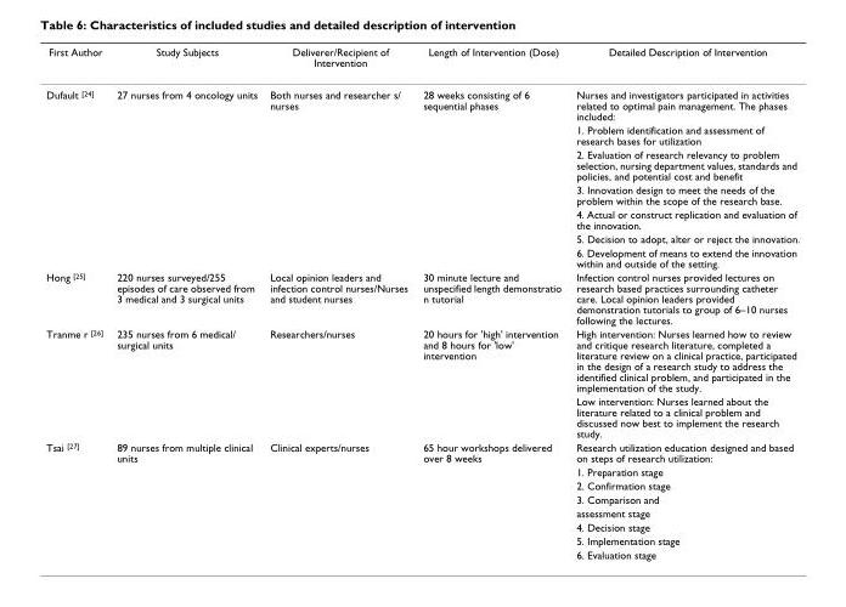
<table><thead><tr><td>First Author</td><td>Study Subjects</td><td>Deliverer/Recipient of Intervention</td><td>Length of Intervention (Dose)</td><td>Detailed Description of Intervention</td></tr></thead><tbody><tr><td rowspan="7">Dufault <sup>[24]</sup></td><td>27 nurses from 4 oncology units</td><td>Both nurses and researcher s/ nurses</td><td>28 weeks consisting of 6 sequential phases</td><td>Nurses and investigators participated in activities related to optimal pain management. The phases included:</td></tr><tr><td></td><td></td><td></td><td>1. Problem identification and assessment of research bases for utilization</td></tr><tr><td></td><td></td><td></td><td>2. Evaluation of research relevancy to problem selection, nursing department values, standards and policies, and potential cost and benefit</td></tr><tr><td></td><td></td><td></td><td>3. Innovation design to meet the needs of the problem within the scope of the research base.</td></tr><tr><td></td><td></td><td></td><td>4. Actual or construct replication and evaluation of the innovation.</td></tr><tr><td></td><td></td><td></td><td>5. Decision to adopt, alter or reject the innovation.</td></tr><tr><td></td><td></td><td></td><td>6. Development of means to extend the innovation within and outside of the setting.</td></tr><tr><td>Hong <sup>[25]</sup></td><td>220 nurses surveyed/255 episodes of care observed from 3 medical and 3 surgical units</td><td>Local opinion leaders and infection control nurses/Nurses and student nurses</td><td>30 minute lecture and unspecified length demonstratio n tutorial</td><td>Infection control nurses provided lectures on research based practices surrounding catheter care. Local opinion leaders provided demonstration tutorials to group of 6–10 nurses following the lectures.</td></tr><tr><td rowspan="2">Tranme r <sup>[26]</sup></td><td>235 nurses from 6 medical/ surgical units</td><td>Researchers/nurses</td><td>20 hours for &#x27;high&#x27; intervention and 8 hours for &#x27;low&#x27; intervention</td><td>High intervention: Nurses learned how to review and critique research literature, completed a literature review on a clinical practice, participated in the design of a research study to address the identified clinical problem, and participated in the implementation of the study.</td></tr><tr><td></td><td></td><td></td><td>Low intervention: Nurses learned about the literature related to a clinical problem and discussed now best to implement the research study.</td></tr><tr><td rowspan="8">Tsai <sup>[27]</sup></td><td>89 nurses from multiple clinical units</td><td>Clinical experts/nurses</td><td>65 hour workshops delivered over 8 weeks</td><td>Research utilization education designed and based on steps of research utilization:</td></tr><tr><td></td><td></td><td></td><td>1. Preparation stage</td></tr><tr><td></td><td></td><td></td><td>2. Confirmation stage</td></tr><tr><td></td><td></td><td></td><td>3. Comparison and</td></tr><tr><td></td><td></td><td></td><td>assessment stage</td></tr><tr><td></td><td></td><td></td><td>4. Decision stage</td></tr><tr><td></td><td></td><td></td><td>5. Implementation stage</td></tr><tr><td></td><td></td><td></td><td>6. Evaluation stage</td></tr></tbody></table>